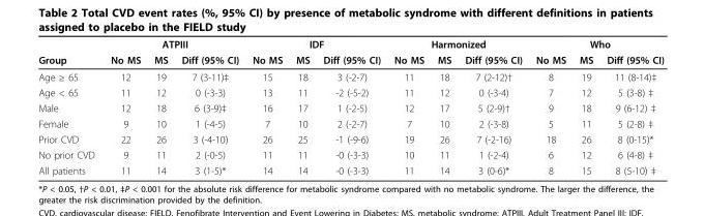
<table><thead><tr><td rowspan="2">Group</td><td colspan="3">ATPIII</td><td colspan="3">IDF</td><td colspan="3">Harmonized</td><td colspan="3">Who</td></tr><tr><td>No MS</td><td>MS</td><td>Diff (95% CI)</td><td>No MS</td><td>MS</td><td>Diff (95% CI)</td><td>No MS</td><td>MS</td><td>Diff (95% CI)</td><td>No MS</td><td>MS</td><td>Diff (95% CI)</td></tr></thead><tbody><tr><td>Age ≥ 65</td><td>12</td><td>19</td><td>7 (3-11)‡</td><td>15</td><td>18</td><td>3 (-2-7)</td><td>11</td><td>18</td><td>7 (2-12)†</td><td>8</td><td>19</td><td>11 (8-14)‡</td></tr><tr><td>Age &lt; 65</td><td>11</td><td>12</td><td>0 (-3-3)</td><td>13</td><td>11</td><td>-2 (-5-2)</td><td>11</td><td>12</td><td>0 (-3-4)</td><td>7</td><td>12</td><td>5 (3-8) ‡</td></tr><tr><td>Male</td><td>12</td><td>18</td><td>6 (3-9)‡</td><td>16</td><td>17</td><td>1 (-2-5)</td><td>12</td><td>17</td><td>5 (2-9)†</td><td>9</td><td>18</td><td>9 (6-12) ‡</td></tr><tr><td>Female</td><td>9</td><td>10</td><td>1 (-4-5)</td><td>7</td><td>10</td><td>2 (-2-7)</td><td>7</td><td>10</td><td>2 (-3-8)</td><td>5</td><td>11</td><td>5 (2-8) ‡</td></tr><tr><td>Prior CVD</td><td>22</td><td>26</td><td>3 (-4-10)</td><td>26</td><td>25</td><td>-1 (-9-6)</td><td>19</td><td>26</td><td>7 (-2-16)</td><td>18</td><td>26</td><td>8 (0-15)*</td></tr><tr><td>No prior CVD</td><td>9</td><td>11</td><td>2 (-0-5)</td><td>11</td><td>11</td><td>-0 (-3-3)</td><td>10</td><td>11</td><td>1 (-2-4)</td><td>6</td><td>12</td><td>6 (4-8) ‡</td></tr><tr><td>All patients</td><td>11</td><td>14</td><td>3 (1-5)*</td><td>14</td><td>14</td><td>-0 (-3-3)</td><td>11</td><td>14</td><td>3 (0-6)*</td><td>8</td><td>15</td><td>8 (5-10) ‡</td></tr></tbody></table>